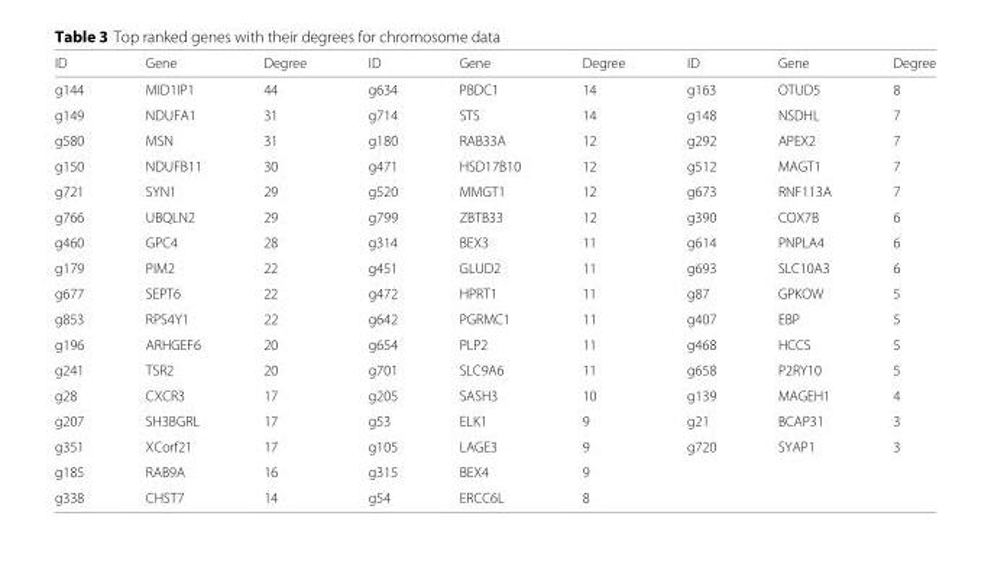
<table><thead><tr><td>ID</td><td>Gene</td><td>Degree</td><td>ID</td><td>Gene</td><td>Degree</td><td>ID</td><td>Gene</td><td>Degree</td></tr></thead><tbody><tr><td>g144</td><td>MID1IP1</td><td>44</td><td>g634</td><td>PBDC1</td><td>14</td><td>g163</td><td>OTUD5</td><td>8</td></tr><tr><td>g149</td><td>NDUFA1</td><td>31</td><td>g714</td><td>STS</td><td>14</td><td>g148</td><td>NSDHL</td><td>7</td></tr><tr><td>g580</td><td>MSN</td><td>31</td><td>g180</td><td>RAB33A</td><td>12</td><td>g292</td><td>APEX2</td><td>7</td></tr><tr><td>g150</td><td>NDUFB11</td><td>30</td><td>g471</td><td>HSD17B10</td><td>12</td><td>g512</td><td>MAGT1</td><td>7</td></tr><tr><td>g721</td><td>SYN1</td><td>29</td><td>g520</td><td>MMGT1</td><td>12</td><td>g673</td><td>RNF113A</td><td>7</td></tr><tr><td>g766</td><td>UBQLN2</td><td>29</td><td>g799</td><td>ZBTB33</td><td>12</td><td>g390</td><td>COX7B</td><td>6</td></tr><tr><td>g460</td><td>GPC4</td><td>28</td><td>g314</td><td>BEX3</td><td>11</td><td>g614</td><td>PNPLA4</td><td>6</td></tr><tr><td>g179</td><td>PIM2</td><td>22</td><td>g451</td><td>GLUD2</td><td>11</td><td>g693</td><td>SLC10A3</td><td>6</td></tr><tr><td>g677</td><td>SEPT6</td><td>22</td><td>g472</td><td>HPRT1</td><td>11</td><td>g87</td><td>GPKOW</td><td>5</td></tr><tr><td>g853</td><td>RPS4Y1</td><td>22</td><td>g642</td><td>PGRMC1</td><td>11</td><td>g407</td><td>EBP</td><td>5</td></tr><tr><td>g196</td><td>ARHGEF6</td><td>20</td><td>g654</td><td>PLP2</td><td>11</td><td>g468</td><td>HCCS</td><td>5</td></tr><tr><td>g241</td><td>TSR2</td><td>20</td><td>g701</td><td>SLC9A6</td><td>11</td><td>g658</td><td>P2RY10</td><td>5</td></tr><tr><td>g28</td><td>CXCR3</td><td>17</td><td>g205</td><td>SASH3</td><td>10</td><td>g139</td><td>MAGEH1</td><td>4</td></tr><tr><td>g207</td><td>SH3BGRL</td><td>17</td><td>g53</td><td>ELK1</td><td>9</td><td>g21</td><td>BCAP31</td><td>3</td></tr><tr><td>g351</td><td>XCorf21</td><td>17</td><td>g105</td><td>LAGE3</td><td>9</td><td>g720</td><td>SYAP1</td><td>3</td></tr><tr><td>g185</td><td>RAB9A</td><td>16</td><td>g315</td><td>BEX4</td><td>9</td><td></td><td></td><td></td></tr><tr><td>g338</td><td>CHST7</td><td>14</td><td>g54</td><td>ERCC6L</td><td>8</td><td></td><td></td><td></td></tr></tbody></table>